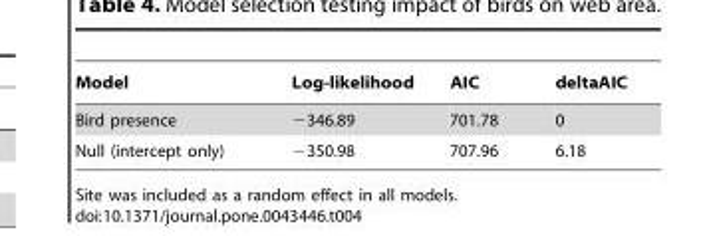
<table><thead><tr><td>Model</td><td>Log-likelihood</td><td>AIC</td><td>deltaAIC</td></tr></thead><tbody><tr><td>Bird presence</td><td>−346.89</td><td>701.78</td><td>0</td></tr><tr><td>Null (intercept only)</td><td>−350.98</td><td>707.96</td><td>6.18</td></tr></tbody></table>